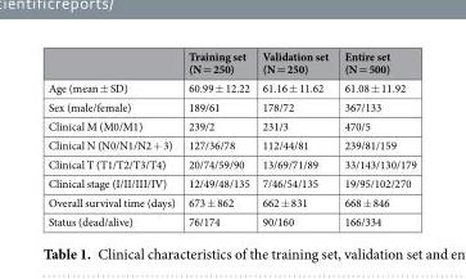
<table><thead><tr><td></td><td>Training set (N = 250)</td><td>Validation set (N = 250)</td><td>Entire set (N = 500)</td></tr></thead><tbody><tr><td>Age (mean ± SD)</td><td>60.99 ± 12.22</td><td>61.16 ± 11.62</td><td>61.08 ± 11.92</td></tr><tr><td>Sex (male/female)</td><td>189/61</td><td>178/72</td><td>367/133</td></tr><tr><td>Clinical M (M0/M1)</td><td>239/2</td><td>231/3</td><td>470/5</td></tr><tr><td>Clinical N (N0/N1/N2 + 3)</td><td>127/36/78</td><td>112/44/81</td><td>239/81/159</td></tr><tr><td>Clinical T (T1/T2/T3/T4)</td><td>20/74/59/90</td><td>13/69/71/89</td><td>33/143/130/179</td></tr><tr><td>Clinical stage (I/II/III/IV)</td><td>12/49/48/135</td><td>7/46/54/135</td><td>19/95/102/270</td></tr><tr><td>Overall survival time (days)</td><td>673 ± 862</td><td>662 ± 831</td><td>668 ± 846</td></tr><tr><td>Status (dead/alive)</td><td>76/174</td><td>90/160</td><td>166/334</td></tr></tbody></table>